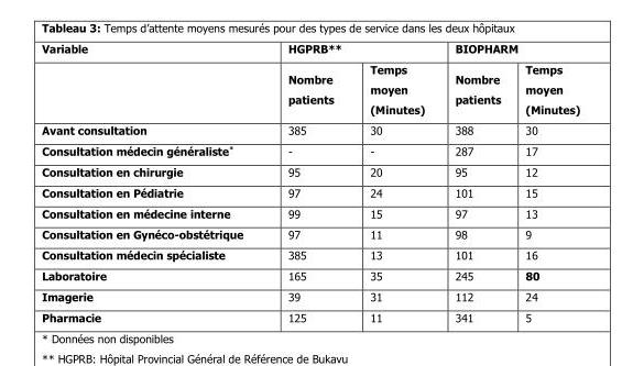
<table><thead><tr><td rowspan="2">Variable</td><td colspan="2">HGPRB**</td><td colspan="2">BIOPHARM</td></tr><tr><td>Nombre patients</td><td>Temps moyen (Minutes)</td><td>Nombre patients</td><td>Temps moyen (Minutes)</td></tr></thead><tbody><tr><td>Avant consultation</td><td>385</td><td>30</td><td>388</td><td>30</td></tr><tr><td>Consultation médecin généraliste*</td><td>-</td><td>-</td><td>287</td><td>17</td></tr><tr><td>Consultation en chirurgie</td><td>95</td><td>20</td><td>95</td><td>12</td></tr><tr><td>Consultation en Pédiatrie</td><td>97</td><td>24</td><td>101</td><td>15</td></tr><tr><td>Consultation en médecine interne</td><td>99</td><td>15</td><td>97</td><td>13</td></tr><tr><td>Consultation en Gynéco-obstétrique</td><td>97</td><td>11</td><td>98</td><td>9</td></tr><tr><td>Consultation médecin spécialiste</td><td>385</td><td>13</td><td>101</td><td>16</td></tr><tr><td>Laboratoire</td><td>165</td><td>35</td><td>245</td><td>80</td></tr><tr><td>Imagerie</td><td>39</td><td>31</td><td>112</td><td>24</td></tr><tr><td>Pharmacie</td><td>125</td><td>11</td><td>341</td><td>5</td></tr></tbody></table>